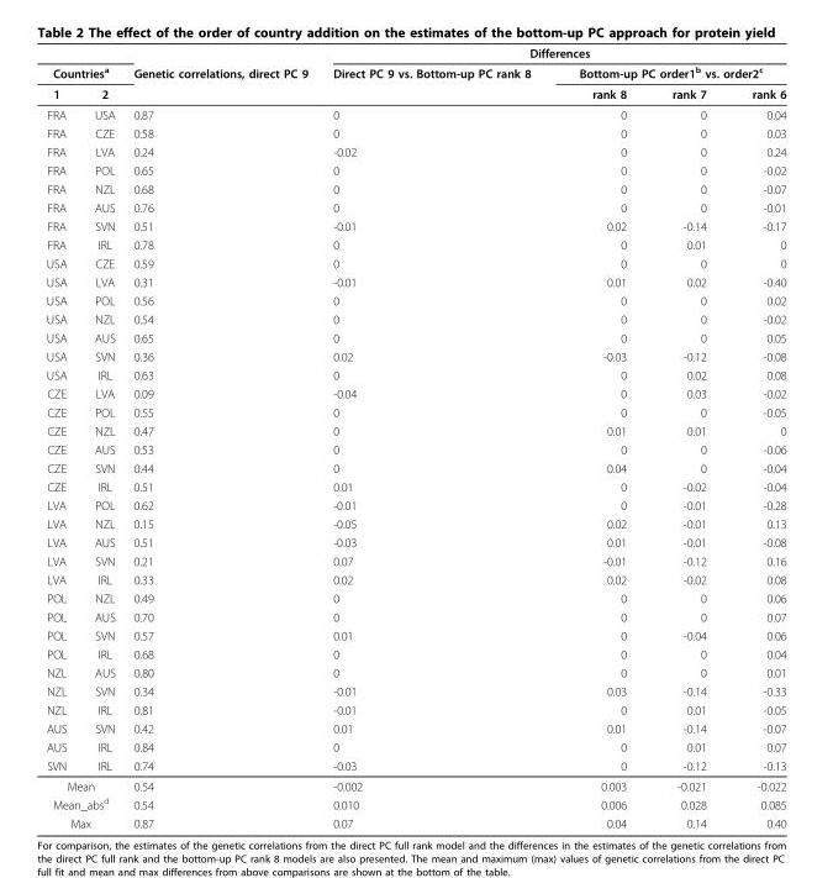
<table><thead><tr><td></td><td></td><td rowspan="3">Genetic correlations, direct PC 9</td><td colspan="4">Differences</td></tr><tr><td colspan="2">Countries<sup>a</sup></td><td rowspan="2">Direct PC 9 vs. Bottom-up PC rank 8</td><td colspan="3">Bottom-up PC order1<sup>b</sup> vs. order2<sup>c</sup></td></tr><tr><td>1</td><td>2</td><td>rank 8</td><td>rank 7</td><td>rank 6</td></tr></thead><tbody><tr><td>FRA</td><td>USA</td><td>0.87</td><td>0</td><td>0</td><td>0</td><td>0.04</td></tr><tr><td>FRA</td><td>CZE</td><td>0.58</td><td>0</td><td>0</td><td>0</td><td>0.03</td></tr><tr><td>FRA</td><td>LVA</td><td>0.24</td><td>-0.02</td><td>0</td><td>0</td><td>0.24</td></tr><tr><td>FRA</td><td>POL</td><td>0.65</td><td>0</td><td>0</td><td>0</td><td>-0.02</td></tr><tr><td>FRA</td><td>NZL</td><td>0.68</td><td>0</td><td>0</td><td>0</td><td>-0.07</td></tr><tr><td>FRA</td><td>AUS</td><td>0.76</td><td>0</td><td>0</td><td>0</td><td>-0.01</td></tr><tr><td>FRA</td><td>SVN</td><td>0.51</td><td>-0.01</td><td>0.02</td><td>-0.14</td><td>-0.17</td></tr><tr><td>FRA</td><td>IRL</td><td>0.78</td><td>0</td><td>0</td><td>0.01</td><td>0</td></tr><tr><td>USA</td><td>CZE</td><td>0.59</td><td>0</td><td>0</td><td>0</td><td>0</td></tr><tr><td>USA</td><td>LVA</td><td>0.31</td><td>-0.01</td><td>0.01</td><td>0.02</td><td>-0.40</td></tr><tr><td>USA</td><td>POL</td><td>0.56</td><td>0</td><td>0</td><td>0</td><td>0.02</td></tr><tr><td>USA</td><td>NZL</td><td>0.54</td><td>0</td><td>0</td><td>0</td><td>-0.02</td></tr><tr><td>USA</td><td>AUS</td><td>0.65</td><td>0</td><td>0</td><td>0</td><td>0.05</td></tr><tr><td>USA</td><td>SVN</td><td>0.36</td><td>0.02</td><td>-0.03</td><td>-0.12</td><td>-0.08</td></tr><tr><td>USA</td><td>IRL</td><td>0.63</td><td>0</td><td>0</td><td>0.02</td><td>0.08</td></tr><tr><td>CZE</td><td>LVA</td><td>0.09</td><td>-0.04</td><td>0</td><td>0.03</td><td>-0.02</td></tr><tr><td>CZE</td><td>POL</td><td>0.55</td><td>0</td><td>0</td><td>0</td><td>-0.05</td></tr><tr><td>CZE</td><td>NZL</td><td>0.47</td><td>0</td><td>0.01</td><td>0.01</td><td>0</td></tr><tr><td>CZE</td><td>AUS</td><td>0.53</td><td>0</td><td>0</td><td>0</td><td>-0.06</td></tr><tr><td>CZE</td><td>SVN</td><td>0.44</td><td>0</td><td>0.04</td><td>0</td><td>-0.04</td></tr><tr><td>CZE</td><td>IRL</td><td>0.51</td><td>0.01</td><td>0</td><td>-0.02</td><td>-0.04</td></tr><tr><td>LVA</td><td>POL</td><td>0.62</td><td>-0.01</td><td>0</td><td>-0.01</td><td>-0.28</td></tr><tr><td>LVA</td><td>NZL</td><td>0.15</td><td>-0.05</td><td>0.02</td><td>-0.01</td><td>0.13</td></tr><tr><td>LVA</td><td>AUS</td><td>0.51</td><td>-0.03</td><td>0.01</td><td>-0.01</td><td>-0.08</td></tr><tr><td>LVA</td><td>SVN</td><td>0.21</td><td>0.07</td><td>-0.01</td><td>-0.12</td><td>0.16</td></tr><tr><td>LVA</td><td>IRL</td><td>0.33</td><td>0.02</td><td>0.02</td><td>-0.02</td><td>0.08</td></tr><tr><td>POL</td><td>NZL</td><td>0.49</td><td>0</td><td>0</td><td>0</td><td>0.06</td></tr><tr><td>POL</td><td>AUS</td><td>0.70</td><td>0</td><td>0</td><td>0</td><td>0.07</td></tr><tr><td>POL</td><td>SVN</td><td>0.57</td><td>0.01</td><td>0</td><td>-0.04</td><td>0.06</td></tr><tr><td>POL</td><td>IRL</td><td>0.68</td><td>0</td><td>0</td><td>0</td><td>0.04</td></tr><tr><td>NZL</td><td>AUS</td><td>0.80</td><td>0</td><td>0</td><td>0</td><td>0.01</td></tr><tr><td>NZL</td><td>SVN</td><td>0.34</td><td>-0.01</td><td>0.03</td><td>-0.14</td><td>-0.33</td></tr><tr><td>NZL</td><td>IRL</td><td>0.81</td><td>-0.01</td><td>0</td><td>0.01</td><td>-0.05</td></tr><tr><td>AUS</td><td>SVN</td><td>0.42</td><td>0.01</td><td>0.01</td><td>-0.14</td><td>-0.07</td></tr><tr><td>AUS</td><td>IRL</td><td>0.84</td><td>0</td><td>0</td><td>0.01</td><td>0.07</td></tr><tr><td>SVN</td><td>IRL</td><td>0.74</td><td>-0.03</td><td>0</td><td>-0.12</td><td>-0.13</td></tr><tr><td colspan="2">Mean</td><td>0.54</td><td>-0.002</td><td>0.003</td><td>-0.021</td><td>-0.022</td></tr><tr><td colspan="2">Mean_abs<sup>d</sup></td><td>0.54</td><td>0.010</td><td>0.006</td><td>0.028</td><td>0.085</td></tr><tr><td colspan="2">Max</td><td>0.87</td><td>0.07</td><td>0.04</td><td>0.14</td><td>0.40</td></tr></tbody></table>